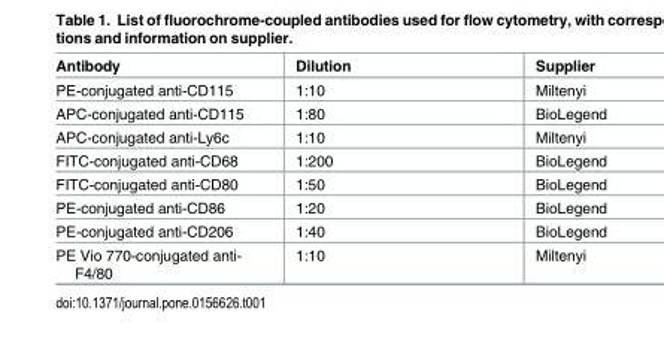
<table><thead><tr><td>Antibody</td><td>Dilution</td><td>Supplier</td></tr></thead><tbody><tr><td>PE-conjugated anti-CD115</td><td>1:10</td><td>Miltenyi</td></tr><tr><td>APC-conjugated anti-CD115</td><td>1:80</td><td>BioLegend</td></tr><tr><td>APC-conjugated anti-Ly6c</td><td>1:10</td><td>Miltenyi</td></tr><tr><td>FITC-conjugated anti-CD68</td><td>1:200</td><td>BioLegend</td></tr><tr><td>FITC-conjugated anti-CD80</td><td>1:50</td><td>BioLegend</td></tr><tr><td>PE-conjugated anti-CD86</td><td>1:20</td><td>BioLegend</td></tr><tr><td>PE-conjugated anti-CD206</td><td>1:40</td><td>BioLegend</td></tr><tr><td>PE Vio 770-conjugated anti- F4/80</td><td>1:10</td><td>Miltenyi</td></tr></tbody></table>